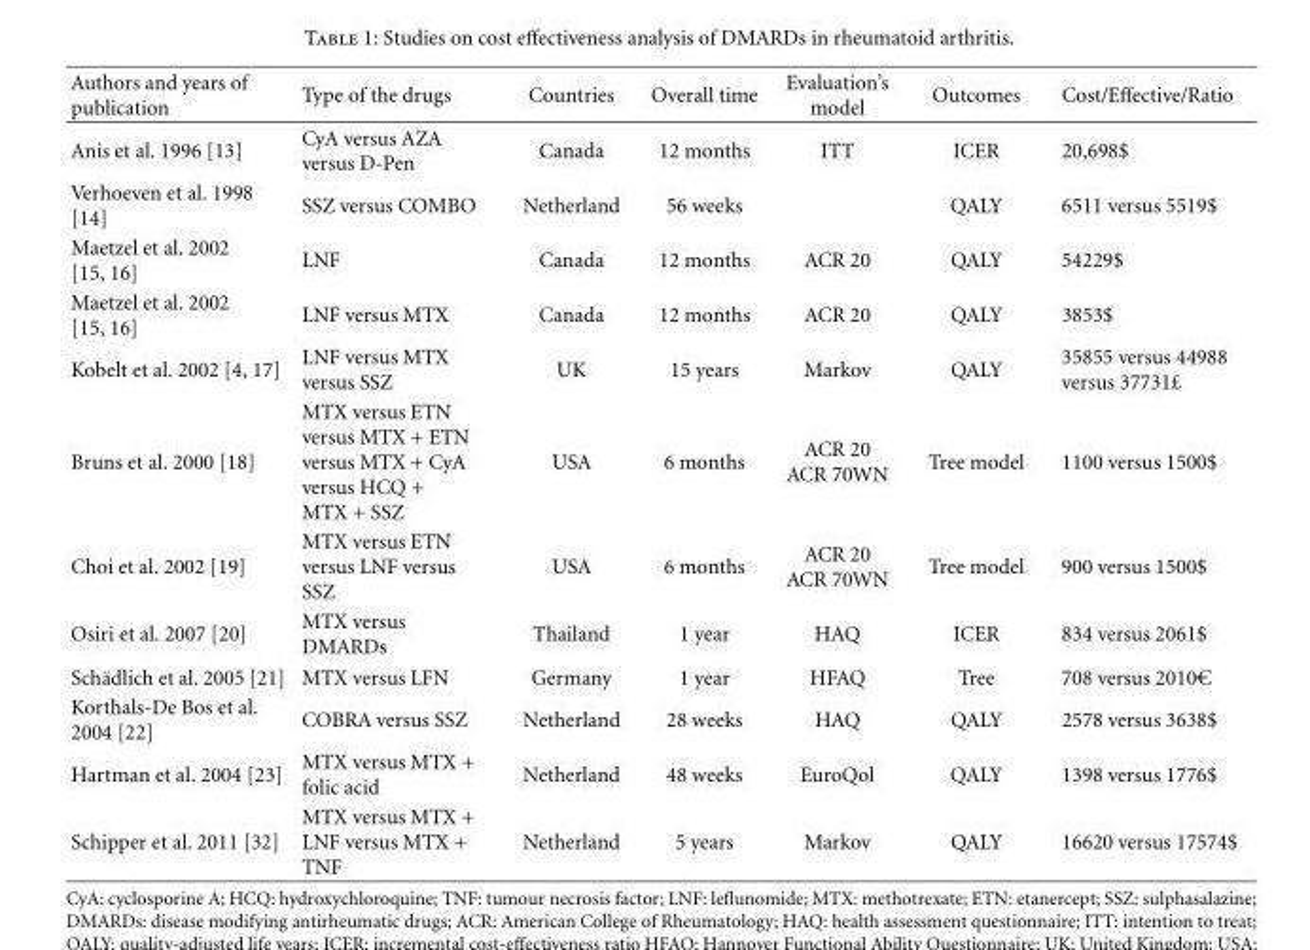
<table><thead><tr><td>Authors and years of publication</td><td>Type of the drugs</td><td>Countries</td><td>Overall time</td><td>Evaluation’s model</td><td>Outcomes</td><td>Cost/Effective/Ratio</td></tr></thead><tbody><tr><td>Anis et al. 1996 [13]</td><td>CyA versus AZA versus D-Pen</td><td>Canada</td><td>12 months</td><td>ITT</td><td>ICER</td><td>20,698$</td></tr><tr><td>Verhoeven et al. 1998 [14]</td><td>SSZ versus COMBO</td><td>Netherland</td><td>56 weeks</td><td></td><td>QALY</td><td>6511 versus 5519$</td></tr><tr><td>Maetzel et al. 2002 [15, 16]</td><td>LNF</td><td>Canada</td><td>12 months</td><td>ACR 20</td><td>QALY</td><td>54229$</td></tr><tr><td>Maetzel et al. 2002 [15, 16]</td><td>LNF versus MTX</td><td>Canada</td><td>12 months</td><td>ACR 20</td><td>QALY</td><td>3853$</td></tr><tr><td>Kobelt et al. 2002 [4, 17]</td><td>LNF versus MTX versus SSZ</td><td>UK</td><td>15 years</td><td>Markov</td><td>QALY</td><td>35855 versus 44988 versus 37731£</td></tr><tr><td>Bruns et al. 2000 [18]</td><td>MTX versus ETN versus MTX + ETN versus MTX + CyA versus HCQ + MTX + SSZ</td><td>USA</td><td>6 months</td><td>ACR 20 ACR 70WN</td><td>Tree model</td><td>1100 versus 1500$</td></tr><tr><td>Choi et al. 2002 [19]</td><td>MTX versus ETN versus LNF versus SSZ</td><td>USA</td><td>6 months</td><td>ACR 20 ACR 70WN</td><td>Tree model</td><td>900 versus 1500$</td></tr><tr><td>Osiri et al. 2007 [20]</td><td>MTX versus DMARDs</td><td>Thailand</td><td>1 year</td><td>HAQ</td><td>ICER</td><td>834 versus 2061$</td></tr><tr><td>Sch¨adlich et al. 2005 [21]</td><td>MTX versus LFN</td><td>Germany</td><td>1 year</td><td>HFAQ</td><td>Tree</td><td>708 versus 2010€</td></tr><tr><td>Korthals-De Bos et al. 2004 [22]</td><td>COBRA versus SSZ</td><td>Netherland</td><td>28 weeks</td><td>HAQ</td><td>QALY</td><td>2578 versus 3638$</td></tr><tr><td>Hartman et al. 2004 [23]</td><td>MTX versus MTX + folic acid</td><td>Netherland</td><td>48 weeks</td><td>EuroQol</td><td>QALY</td><td>1398 versus 1776$</td></tr><tr><td>Schipper et al. 2011 [32]</td><td>MTX versus MTX + LNF versus MTX + TNF</td><td>Netherland</td><td>5 years</td><td>Markov</td><td>QALY</td><td>16620 versus 17574$</td></tr></tbody></table>